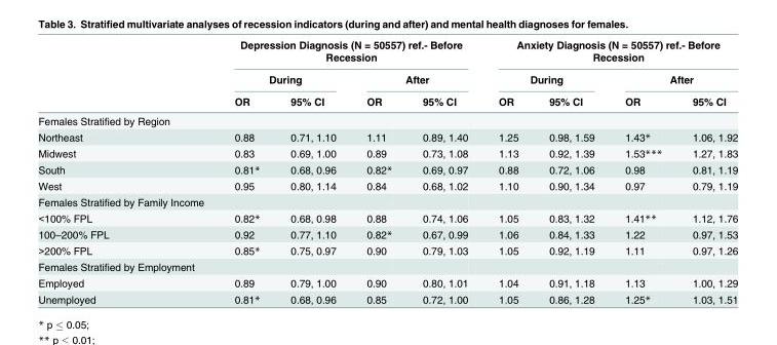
<table><thead><tr><td rowspan="3"></td><td colspan="4">Depression Diagnosis (N = 50557) ref.- Before Recession</td><td colspan="4">Anxiety Diagnosis (N = 50557) ref.- Before Recession</td></tr><tr><td colspan="2">During</td><td colspan="2">After</td><td colspan="2">During</td><td colspan="2">After</td></tr><tr><td>OR</td><td>95% CI</td><td>OR</td><td>95% CI</td><td>OR</td><td>95% CI</td><td>OR</td><td>95% CI</td></tr></thead><tbody><tr><td colspan="9">Females Stratified by Region</td></tr><tr><td>Northeast</td><td>0.88</td><td>0.71, 1.10</td><td>1.11</td><td>0.89, 1.40</td><td>1.25</td><td>0.98, 1.59</td><td>1.43*</td><td>1.06, 1.92</td></tr><tr><td>Midwest</td><td>0.83</td><td>0.69, 1.00</td><td>0.89</td><td>0.73, 1.08</td><td>1.13</td><td>0.92, 1.39</td><td>1.53***</td><td>1.27, 1.83</td></tr><tr><td>South</td><td>0.81*</td><td>0.68, 0.96</td><td>0.82*</td><td>0.69, 0.97</td><td>0.88</td><td>0.72, 1.06</td><td>0.98</td><td>0.81, 1.19</td></tr><tr><td>West</td><td>0.95</td><td>0.80, 1.14</td><td>0.84</td><td>0.68, 1.02</td><td>1.10</td><td>0.90, 1.34</td><td>0.97</td><td>0.79, 1.19</td></tr><tr><td colspan="9">Females Stratified by Family Income</td></tr><tr><td>&lt;100% FPL</td><td>0.82*</td><td>0.68, 0.98</td><td>0.88</td><td>0.74, 1.06</td><td>1.05</td><td>0.83, 1.32</td><td>1.41**</td><td>1.12, 1.76</td></tr><tr><td>100–200% FPL</td><td>0.92</td><td>0.77, 1.10</td><td>0.82*</td><td>0.67, 0.99</td><td>1.06</td><td>0.84, 1.33</td><td>1.22</td><td>0.97, 1.53</td></tr><tr><td>&gt;200% FPL</td><td>0.85*</td><td>0.75, 0.97</td><td>0.90</td><td>0.79, 1.03</td><td>1.05</td><td>0.92, 1.19</td><td>1.11</td><td>0.97, 1.26</td></tr><tr><td colspan="9">Females Stratified by Employment</td></tr><tr><td>Employed</td><td>0.89</td><td>0.79, 1.00</td><td>0.90</td><td>0.80, 1.01</td><td>1.04</td><td>0.91, 1.18</td><td>1.13</td><td>1.00, 1.29</td></tr><tr><td>Unemployed</td><td>0.81*</td><td>0.68, 0.96</td><td>0.85</td><td>0.72, 1.00</td><td>1.05</td><td>0.86, 1.28</td><td>1.25*</td><td>1.03, 1.51</td></tr></tbody></table>